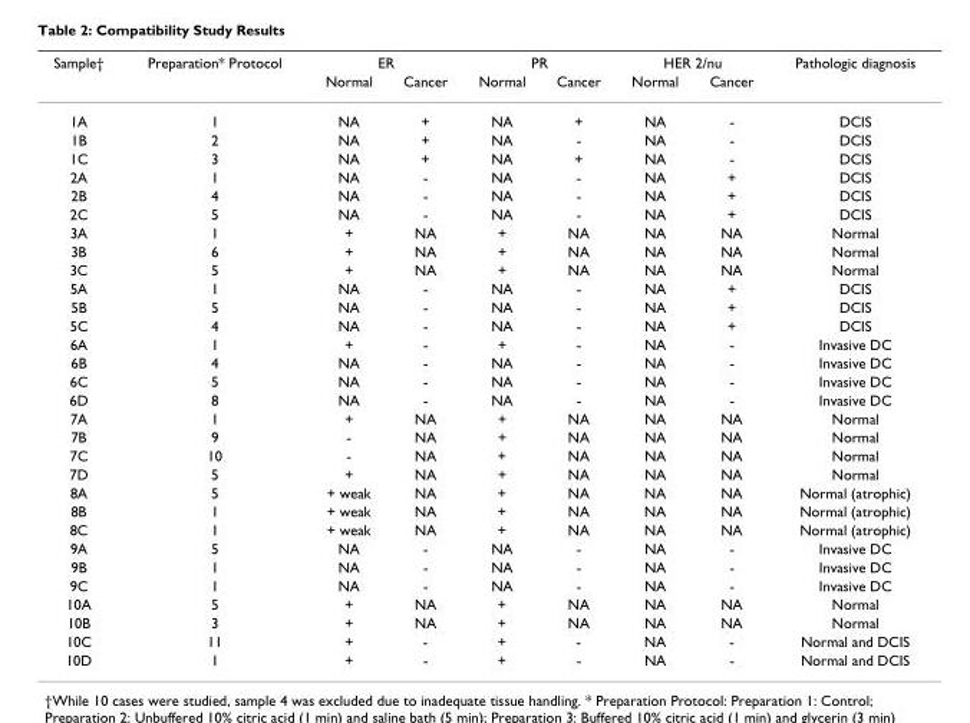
<table><thead><tr><td rowspan="2">Sample†</td><td rowspan="2">Preparation* Protocol</td><td colspan="2">ER</td><td colspan="2">PR</td><td colspan="2">HER 2/nu</td><td rowspan="2">Pathologic diagnosis</td></tr><tr><td>Normal</td><td>Cancer</td><td>Normal</td><td>Cancer</td><td>Normal</td><td>Cancer</td></tr></thead><tbody><tr><td>1A</td><td>1</td><td>NA</td><td>+</td><td>NA</td><td>+</td><td>NA</td><td>-</td><td>DCIS</td></tr><tr><td>1B</td><td>2</td><td>NA</td><td>+</td><td>NA</td><td>-</td><td>NA</td><td>-</td><td>DCIS</td></tr><tr><td>1C</td><td>3</td><td>NA</td><td>+</td><td>NA</td><td>+</td><td>NA</td><td>-</td><td>DCIS</td></tr><tr><td>2A</td><td>1</td><td>NA</td><td>-</td><td>NA</td><td>-</td><td>NA</td><td>+</td><td>DCIS</td></tr><tr><td>2B</td><td>4</td><td>NA</td><td>-</td><td>NA</td><td>-</td><td>NA</td><td>+</td><td>DCIS</td></tr><tr><td>2C</td><td>5</td><td>NA</td><td>-</td><td>NA</td><td>-</td><td>NA</td><td>+</td><td>DCIS</td></tr><tr><td>3A</td><td>1</td><td>+</td><td>NA</td><td>+</td><td>NA</td><td>NA</td><td>NA</td><td>Normal</td></tr><tr><td>3B</td><td>6</td><td>+</td><td>NA</td><td>+</td><td>NA</td><td>NA</td><td>NA</td><td>Normal</td></tr><tr><td>3C</td><td>5</td><td>+</td><td>NA</td><td>+</td><td>NA</td><td>NA</td><td>NA</td><td>Normal</td></tr><tr><td>5A</td><td>1</td><td>NA</td><td>-</td><td>NA</td><td>-</td><td>NA</td><td>+</td><td>DCIS</td></tr><tr><td>5B</td><td>5</td><td>NA</td><td>-</td><td>NA</td><td>-</td><td>NA</td><td>+</td><td>DCIS</td></tr><tr><td>5C</td><td>4</td><td>NA</td><td>-</td><td>NA</td><td>-</td><td>NA</td><td>+</td><td>DCIS</td></tr><tr><td>6A</td><td>1</td><td>+</td><td>-</td><td>+</td><td>-</td><td>NA</td><td>-</td><td>Invasive DC</td></tr><tr><td>6B</td><td>4</td><td>NA</td><td>-</td><td>NA</td><td>-</td><td>NA</td><td>-</td><td>Invasive DC</td></tr><tr><td>6C</td><td>5</td><td>NA</td><td>-</td><td>NA</td><td>-</td><td>NA</td><td>-</td><td>Invasive DC</td></tr><tr><td>6D</td><td>8</td><td>NA</td><td>-</td><td>NA</td><td>-</td><td>NA</td><td>-</td><td>Invasive DC</td></tr><tr><td>7A</td><td>1</td><td>+</td><td>NA</td><td>+</td><td>NA</td><td>NA</td><td>NA</td><td>Normal</td></tr><tr><td>7B</td><td>9</td><td>-</td><td>NA</td><td>+</td><td>NA</td><td>NA</td><td>NA</td><td>Normal</td></tr><tr><td>7C</td><td>10</td><td>-</td><td>NA</td><td>+</td><td>NA</td><td>NA</td><td>NA</td><td>Normal</td></tr><tr><td>7D</td><td>5</td><td>+</td><td>NA</td><td>+</td><td>NA</td><td>NA</td><td>NA</td><td>Normal</td></tr><tr><td>8A</td><td>5</td><td>+ weak</td><td>NA</td><td>+</td><td>NA</td><td>NA</td><td>NA</td><td>Normal (atrophic)</td></tr><tr><td>8B</td><td>1</td><td>+ weak</td><td>NA</td><td>+</td><td>NA</td><td>NA</td><td>NA</td><td>Normal (atrophic)</td></tr><tr><td>8C</td><td>1</td><td>+ weak</td><td>NA</td><td>+</td><td>NA</td><td>NA</td><td>NA</td><td>Normal (atrophic)</td></tr><tr><td>9A</td><td>5</td><td>NA</td><td>-</td><td>NA</td><td>-</td><td>NA</td><td>-</td><td>Invasive DC</td></tr><tr><td>9B</td><td>1</td><td>NA</td><td>-</td><td>NA</td><td>-</td><td>NA</td><td>-</td><td>Invasive DC</td></tr><tr><td>9C</td><td>1</td><td>NA</td><td>-</td><td>NA</td><td>-</td><td>NA</td><td>-</td><td>Invasive DC</td></tr><tr><td>10A</td><td>5</td><td>+</td><td>NA</td><td>+</td><td>NA</td><td>NA</td><td>NA</td><td>Normal</td></tr><tr><td>10B</td><td>3</td><td>+</td><td>NA</td><td>+</td><td>NA</td><td>NA</td><td>NA</td><td>Normal</td></tr><tr><td>10C</td><td>11</td><td>+</td><td>-</td><td>+</td><td>-</td><td>NA</td><td>-</td><td>Normal and DCIS</td></tr><tr><td>10D</td><td>1</td><td>+</td><td>-</td><td>+</td><td>-</td><td>NA</td><td>-</td><td>Normal and DCIS</td></tr></tbody></table>